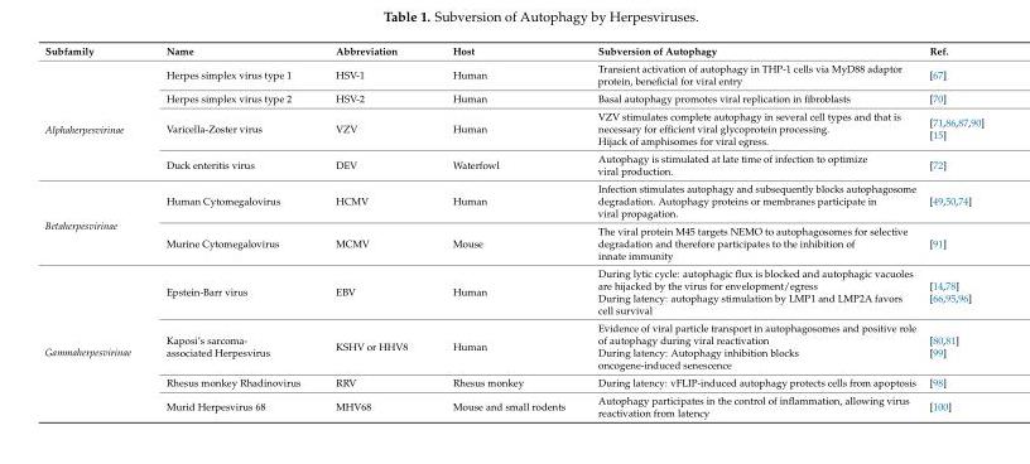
<table><thead><tr><td>Subfamily</td><td>Name</td><td>Abbreviation</td><td>Host</td><td>Subversion of Autophagy</td><td>Ref.</td></tr></thead><tbody><tr><td rowspan="4">Alphaherpesvirinae</td><td>Herpes simplex virus type 1</td><td>HSV-1</td><td>Human</td><td>Transient activation of autophagy in THP-1 cells via MyD88 adaptor protein, beneficial for viral entry</td><td>[67]</td></tr><tr><td>Herpes simplex virus type 2</td><td>HSV-2</td><td>Human</td><td>Basal autophagy promotes viral replication in fibroblasts</td><td>[70]</td></tr><tr><td>Varicella-Zoster virus</td><td>VZV</td><td>Human</td><td>VZV stimulates complete autophagy in several cell types and that is necessary for efficient viral glycoprotein processing. Hijack of amphisomes for viral egress.</td><td>[71,86,87,90] [15]</td></tr><tr><td>Duck enteritis virus</td><td>DEV</td><td>Waterfowl</td><td>Autophagy is stimulated at late time of infection to optimize viral production.</td><td>[72]</td></tr><tr><td rowspan="2">Betaherpesvirinae</td><td>Human Cytomegalovirus</td><td>HCMV</td><td>Human</td><td>Infection stimulates autophagy and subsequently blocks autophagosome degradation. Autophagy proteins or membranes participate in viral propagation.</td><td>[49,50,74]</td></tr><tr><td>Murine Cytomegalovirus</td><td>MCMV</td><td>Mouse</td><td>The viral protein M45 targets NEMO to autophagosomes for selective degradation and therefore participates to the inhibition of innate immunity</td><td>[91]</td></tr><tr><td rowspan="4">Gammaherpesvirinae</td><td>Epstein-Barr virus</td><td>EBV</td><td>Human</td><td>During lytic cycle: autophagic flux is blocked and autophagic vacuoles are hijacked by the virus for envelopment/egress During latency: autophagy stimulation by LMP1 and LMP2A favors cell survival</td><td>[14,78] [66,95,96]</td></tr><tr><td>Kaposi’s sarcoma- associated Herpesvirus</td><td>KSHV or HHV8</td><td>Human</td><td>Evidence of viral particle transport in autophagosomes and positive role of autophagy during viral reactivation During latency: Autophagy inhibition blocks oncogene-induced senescence</td><td>[80,81] [99]</td></tr><tr><td>Rhesus monkey Rhadinovirus</td><td>RRV</td><td>Rhesus monkey</td><td>During latency: vFLIP-induced autophagy protects cells from apoptosis</td><td>[98]</td></tr><tr><td>Murid Herpesvirus 68</td><td>MHV68</td><td>Mouse and small rodents</td><td>Autophagy participates in the control of inflammation, allowing virus reactivation from latency</td><td>[100]</td></tr></tbody></table>